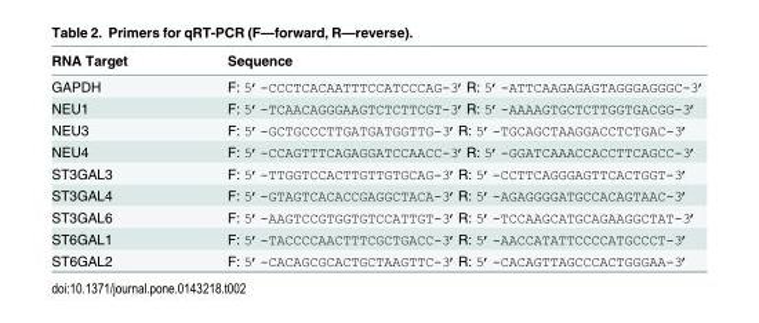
<table><thead><tr><td>RNA Target</td><td>Sequence</td></tr></thead><tbody><tr><td>GAPDH</td><td>F: 5’-CCCTCACAATTTCCATCCCAG-3’R: 5’-ATTCAAGAGAGTAGGGAGGGC-3’</td></tr><tr><td>NEU1</td><td>F: 5’-TCAACAGGGAAGTCTCTTCGT-3’R: 5’-AAAAGTGCTCTTGGTGACGG-3’</td></tr><tr><td>NEU3</td><td>F: 5’-GCTGCCCTTGATGATGGTTG-3’R: 5’-TGCAGCTAAGGACCTCTGAC-3’</td></tr><tr><td>NEU4</td><td>F: 5’-CCAGTTTCAGAGGATCCAACC-3’R: 5’-GGATCAAACCACCTTCAGCC-3’</td></tr><tr><td>ST3GAL3</td><td>F: 5’-TTGGTCCACTTGTTGTGCAG-3’R: 5’-CCTTCAGGGAGTTCACTGGT-3’</td></tr><tr><td>ST3GAL4</td><td>F: 5’-GTAGTCACACCGAGGCTACA-3’R: 5’-AGAGGGGATGCCACAGTAAC-3’</td></tr><tr><td>ST3GAL6</td><td>F: 5’-AAGTCCGTGGTGTCCATTGT-3’R: 5’-TCCAAGCATGCAGAAGGCTAT-3’</td></tr><tr><td>ST6GAL1</td><td>F: 5’-TACCCCAACTTTCGCTGACC-3’R: 5’-AACCATATTCCCCATGCCCT-3’</td></tr><tr><td>ST6GAL2</td><td>F: 5’-CACAGCGCACTGCTAAGTTC-3’R: 5’-CACAGTTAGCCCACTGGGAA-3’</td></tr></tbody></table>